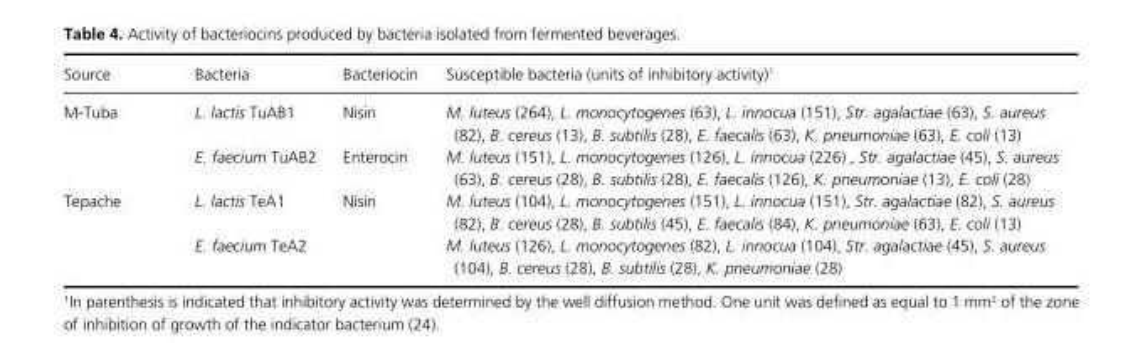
<table><thead><tr><td>Source</td><td>Bacteria</td><td>Bacteriocin</td><td>Susceptible bacteria (units of inhibitory activity)<sup>1</sup></td></tr></thead><tbody><tr><td rowspan="2">M- Tuba</td><td>L. lactis TuAB1</td><td>Nisin</td><td>M. luteus (264), L. monocytogenes (63), L. innocua (151), Str. agalactiae (63), S. aureus (82), B. cereus (13), B. subtilis (28), E. faecalis (63), K. pneumoniae (63), E. coli (13)</td></tr><tr><td>E. faecium TuAB2</td><td>Enterocin</td><td>M. luteus (151), L. monocytogenes (126), L. innocua (226) , Str. agalactiae (45), S. aureus (63), B. cereus (28), B. subtilis (28), E. faecalis (126), K. pneumoniae (13), E. coli (28)</td></tr><tr><td rowspan="2">Tepache</td><td>L. lactis TeA1</td><td>Nisin</td><td>M. luteus (104), L. monocytogenes (151), L. innocua (151), Str. agalactiae (82), S. aureus (82), B. cereus (28), B. subtilis (45), E. faecalis (84), K. pneumoniae (63), E. coli (13)</td></tr><tr><td>E. faecium TeA2</td><td></td><td>M. luteus (126), L. monocytogenes (82), L. innocua (104), Str. agalactiae (45), S. aureus (104), B. cereus (28), B. subtilis (28), K. pneumoniae (28)</td></tr></tbody></table>